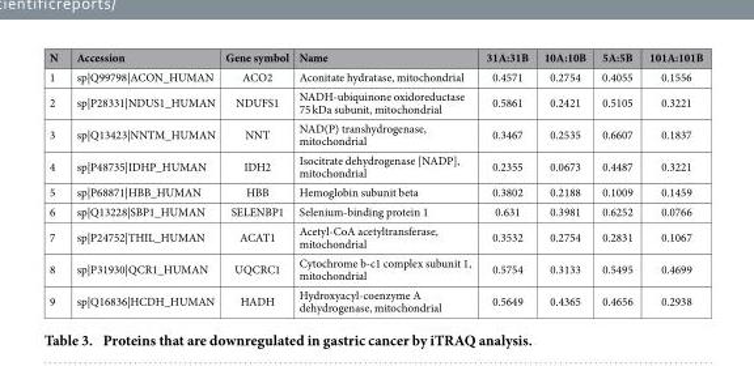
<table><thead><tr><td>N</td><td>Accession</td><td>Gene symbol</td><td>Name</td><td>31A:31B</td><td>10A:10B</td><td>5A:5B</td><td>101A:101B</td></tr></thead><tbody><tr><td>1</td><td>sp|Q99798|ACON_HUMAN</td><td>ACO2</td><td>Aconitate hydratase, mitochondrial</td><td>0.4571</td><td>0.2754</td><td>0.4055</td><td>0.1556</td></tr><tr><td>2</td><td>sp|P28331|NDUS1_HUMAN</td><td>NDUFS1</td><td>NADH-ubiquinone oxidoreductase 75 kDa subunit, mitochondrial</td><td>0.5861</td><td>0.2421</td><td>0.5105</td><td>0.3221</td></tr><tr><td>3</td><td>sp|Q13423|NNTM_HUMAN</td><td>NNT</td><td>NAD(P) transhydrogenase, mitochondrial</td><td>0.3467</td><td>0.2535</td><td>0.6607</td><td>0.1837</td></tr><tr><td>4</td><td>sp|P48735|IDHP_HUMAN</td><td>IDH2</td><td>Isocitrate dehydrogenase [NADP], mitochondrial</td><td>0.2355</td><td>0.0673</td><td>0.4487</td><td>0.3221</td></tr><tr><td>5</td><td>sp|P68871|HBB_HUMAN</td><td>HBB</td><td>Hemoglobin subunit beta</td><td>0.3802</td><td>0.2188</td><td>0.1009</td><td>0.1459</td></tr><tr><td>6</td><td>sp|Q13228|SBP1_HUMAN</td><td>SELENBP1</td><td>Selenium-binding protein 1</td><td>0.631</td><td>0.3981</td><td>0.6252</td><td>0.0766</td></tr><tr><td>7</td><td>sp|P24752|THIL_HUMAN</td><td>ACAT1</td><td>Acetyl-CoA acetyltransferase, mitochondrial</td><td>0.3532</td><td>0.2754</td><td>0.2831</td><td>0.1067</td></tr><tr><td>8</td><td>sp|P31930|QCR1_HUMAN</td><td>UQCRC1</td><td>Cytochrome b-c1 complex subunit 1, mitochondrial</td><td>0.5754</td><td>0.3133</td><td>0.5495</td><td>0.4699</td></tr><tr><td>9</td><td>sp|Q16836|HCDH_HUMAN</td><td>HADH</td><td>Hydroxyacyl-coenzyme A dehydrogenase, mitochondrial</td><td>0.5649</td><td>0.4365</td><td>0.4656</td><td>0.2938</td></tr></tbody></table>